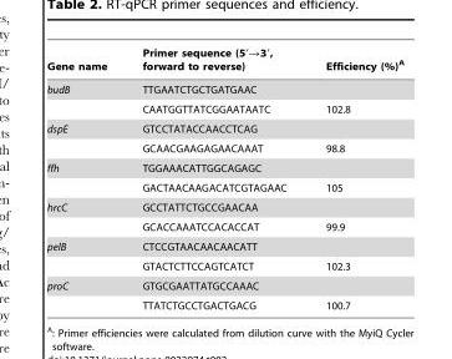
<table><thead><tr><td>Gene name</td><td>Primer sequence (5′→3′, forward to reverse)</td><td>Efficiency (%)<sup>A</sup></td></tr></thead><tbody><tr><td rowspan="2">budB</td><td>TTGAATCTGCTGATGAAC</td><td></td></tr><tr><td>CAATGGTTATCGGAATAATC</td><td>102.8</td></tr><tr><td rowspan="2">dspE</td><td>GTCCTATACCAACCTCAG</td><td></td></tr><tr><td>GCAACGAAGAGAACAAAT</td><td>98.8</td></tr><tr><td rowspan="2">ffh</td><td>TGGAAACATTGGCAGAGC</td><td></td></tr><tr><td>GACTAACAAGACATCGTAGAAC</td><td>105</td></tr><tr><td rowspan="2">hrcC</td><td>GCCTATTCTGCCGAACAA</td><td></td></tr><tr><td>GCACCAAATCCACACCAT</td><td>99.9</td></tr><tr><td rowspan="2">pelB</td><td>CTCCGTAACAACAACATT</td><td></td></tr><tr><td>GTACTCTTCCAGTCATCT</td><td>102.3</td></tr><tr><td rowspan="2">proC</td><td>GTGCGAATTATGCCAAAC</td><td></td></tr><tr><td>TTATCTGCCTGACTGACG</td><td>100.7</td></tr></tbody></table>